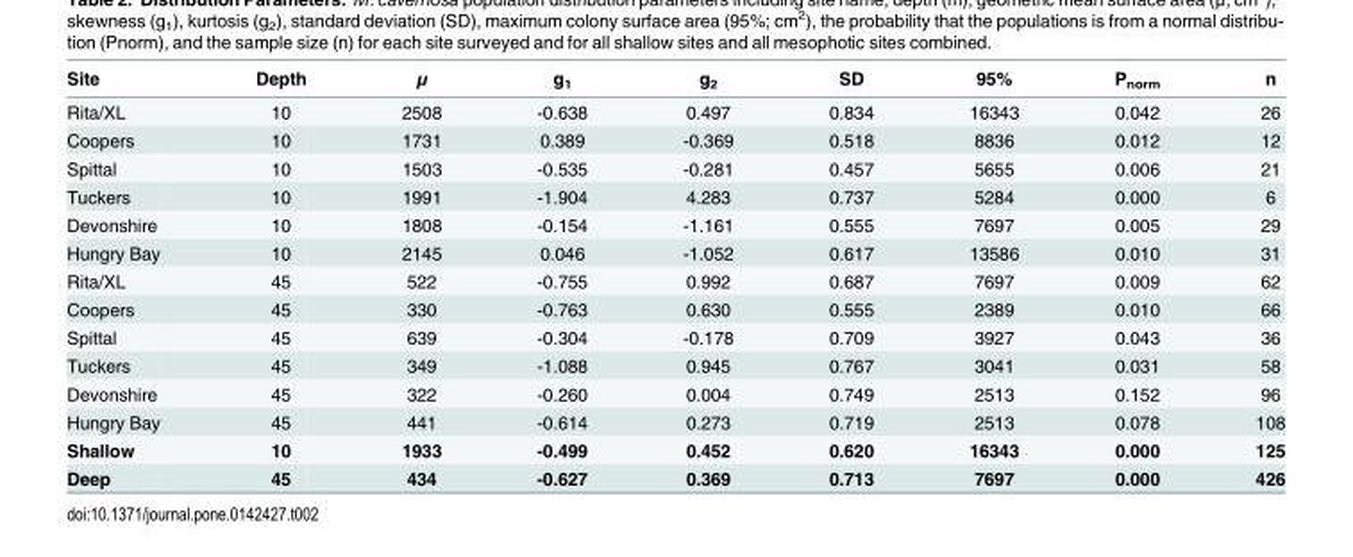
<table><thead><tr><td>Site</td><td>Depth</td><td>μ</td><td>g<sub>1</sub></td><td>g<sub>2</sub></td><td>SD</td><td>95%</td><td>P<sub>norm</sub></td><td>n</td></tr></thead><tbody><tr><td>Rita/XL</td><td>10</td><td>2508</td><td>-0.638</td><td>0.497</td><td>0.834</td><td>16343</td><td>0.042</td><td>26</td></tr><tr><td>Coopers</td><td>10</td><td>1731</td><td>0.389</td><td>-0.369</td><td>0.518</td><td>8836</td><td>0.012</td><td>12</td></tr><tr><td>Spittal</td><td>10</td><td>1503</td><td>-0.535</td><td>-0.281</td><td>0.457</td><td>5655</td><td>0.006</td><td>21</td></tr><tr><td>Tuckers</td><td>10</td><td>1991</td><td>-1.904</td><td>4.283</td><td>0.737</td><td>5284</td><td>0.000</td><td>6</td></tr><tr><td>Devonshire</td><td>10</td><td>1808</td><td>-0.154</td><td>-1.161</td><td>0.555</td><td>7697</td><td>0.005</td><td>29</td></tr><tr><td>Hungry Bay</td><td>10</td><td>2145</td><td>0.046</td><td>-1.052</td><td>0.617</td><td>13586</td><td>0.010</td><td>31</td></tr><tr><td>Rita/XL</td><td>45</td><td>522</td><td>-0.755</td><td>0.992</td><td>0.687</td><td>7697</td><td>0.009</td><td>62</td></tr><tr><td>Coopers</td><td>45</td><td>330</td><td>-0.763</td><td>0.630</td><td>0.555</td><td>2389</td><td>0.010</td><td>66</td></tr><tr><td>Spittal</td><td>45</td><td>639</td><td>-0.304</td><td>-0.178</td><td>0.709</td><td>3927</td><td>0.043</td><td>36</td></tr><tr><td>Tuckers</td><td>45</td><td>349</td><td>-1.088</td><td>0.945</td><td>0.767</td><td>3041</td><td>0.031</td><td>58</td></tr><tr><td>Devonshire</td><td>45</td><td>322</td><td>-0.260</td><td>0.004</td><td>0.749</td><td>2513</td><td>0.152</td><td>96</td></tr><tr><td>Hungry Bay</td><td>45</td><td>441</td><td>-0.614</td><td>0.273</td><td>0.719</td><td>2513</td><td>0.078</td><td>108</td></tr><tr><td>Shallow</td><td>10</td><td>1933</td><td>-0.499</td><td>0.452</td><td>0.620</td><td>16343</td><td>0.000</td><td>125</td></tr><tr><td>Deep</td><td>45</td><td>434</td><td>-0.627</td><td>0.369</td><td>0.713</td><td>7697</td><td>0.000</td><td>426</td></tr></tbody></table>